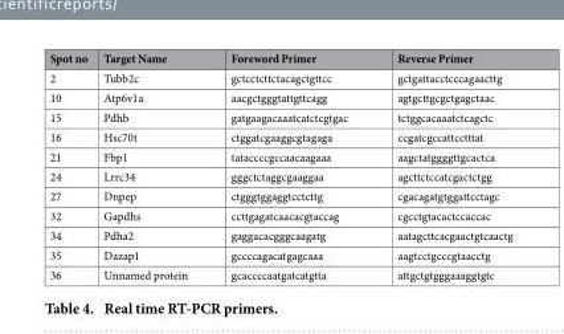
<table><thead><tr><td>Spot no</td><td>Target Name</td><td>Foreword Primer</td><td>Reverse Primer</td></tr></thead><tbody><tr><td>2</td><td>Tubb2c</td><td>gctcctcttctacagctgttcc</td><td>gctgattacctcccagaacttg</td></tr><tr><td>10</td><td>Atp6v1a</td><td>aacgctgggtattgttcagg</td><td>agtgcttgcgctgagctaac</td></tr><tr><td>15</td><td>Pdhb</td><td>gatgaagacaaatcatctcgtgac</td><td>tctggcacaaatctcagctc</td></tr><tr><td>16</td><td>Hsc70t</td><td>ctggatcgaaggcgtagaga</td><td>ccgatcgccattcctttat</td></tr><tr><td>21</td><td>Fbp1</td><td>tataccccgccaacaagaaa</td><td>aagctatggggttgcactca</td></tr><tr><td>24</td><td>Lrrc34</td><td>gggctctaggcgaaggaa</td><td>agcttctccatcgactctgg</td></tr><tr><td>27</td><td>Dnpep</td><td>ctgggtggaggtcctcttg</td><td>cgacagatgtggattcctagc</td></tr><tr><td>32</td><td>Gapdhs</td><td>ccttgagatcaacacgtaccag</td><td>cgcctgtacactccaccac</td></tr><tr><td>34</td><td>Pdha2</td><td>gaggacacgggcaagatg</td><td>aatagcttcacgaactgtcaactg</td></tr><tr><td>35</td><td>Dazap1</td><td>gccccagacatgagcaaa</td><td>aagtcctgcccgtaacctg</td></tr><tr><td>36</td><td>Unnamed protein</td><td>gcaccccaatgatcatgtta</td><td>attgctgtgggaaaggtgtc</td></tr></tbody></table>